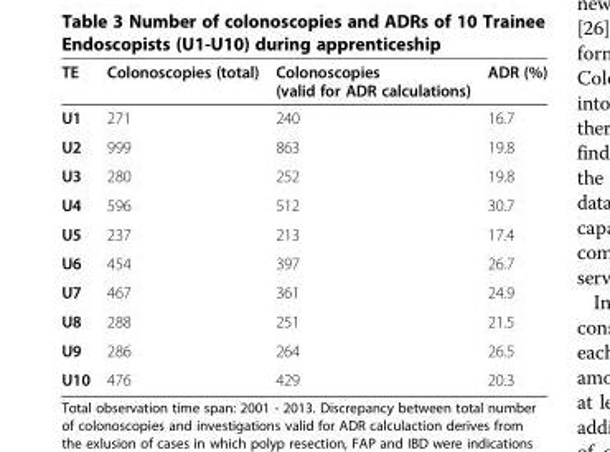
<table><thead><tr><td>TE</td><td>Colonoscopies (total)</td><td>Colonoscopies (valid for ADR calculations)</td><td>ADR (%)</td></tr></thead><tbody><tr><td>U1</td><td>271</td><td>240</td><td>16.7</td></tr><tr><td>U2</td><td>999</td><td>863</td><td>19.8</td></tr><tr><td>U3</td><td>280</td><td>252</td><td>19.8</td></tr><tr><td>U4</td><td>596</td><td>512</td><td>30.7</td></tr><tr><td>U5</td><td>237</td><td>213</td><td>17.4</td></tr><tr><td>U6</td><td>454</td><td>397</td><td>26.7</td></tr><tr><td>U7</td><td>467</td><td>361</td><td>24.9</td></tr><tr><td>U8</td><td>288</td><td>251</td><td>21.5</td></tr><tr><td>U9</td><td>286</td><td>264</td><td>26.5</td></tr><tr><td>U10</td><td>476</td><td>429</td><td>20.3</td></tr></tbody></table>